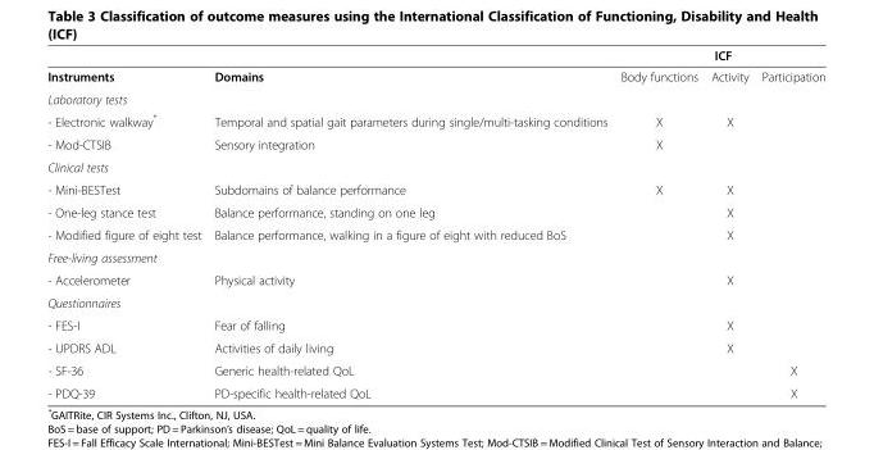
<table><thead><tr><td rowspan="2">Instruments</td><td rowspan="2">Domains</td><td colspan="3">ICF</td></tr><tr><td>Body functions</td><td>Activity</td><td>Participation</td></tr></thead><tbody><tr><td colspan="5">Laboratory tests</td></tr><tr><td>- Electronic walkway*</td><td>Temporal and spatial gait parameters during single/multi-tasking conditions</td><td>X</td><td>X</td><td></td></tr><tr><td>- Mod-CTSIB</td><td>Sensory integration</td><td>X</td><td></td><td></td></tr><tr><td colspan="5">Clinical tests</td></tr><tr><td>- Mini-BESTest</td><td>Subdomains of balance performance</td><td>X</td><td>X</td><td></td></tr><tr><td>- One-leg stance test</td><td>Balance performance, standing on one leg</td><td></td><td>X</td><td></td></tr><tr><td>- Modified figure of eight test</td><td>Balance performance, walking in a figure of eight with reduced BoS</td><td></td><td>X</td><td></td></tr><tr><td colspan="5">Free-living assessment</td></tr><tr><td>- Accelerometer</td><td>Physical activity</td><td></td><td>X</td><td></td></tr><tr><td colspan="5">Questionnaires</td></tr><tr><td>- FES-I</td><td>Fear of falling</td><td></td><td>X</td><td></td></tr><tr><td>- UPDRS ADL</td><td>Activities of daily living</td><td></td><td>X</td><td></td></tr><tr><td>- SF-36</td><td>Generic health-related QoL</td><td></td><td></td><td>X</td></tr><tr><td>- PDQ-39</td><td>PD-specific health-related QoL</td><td></td><td></td><td>X</td></tr></tbody></table>